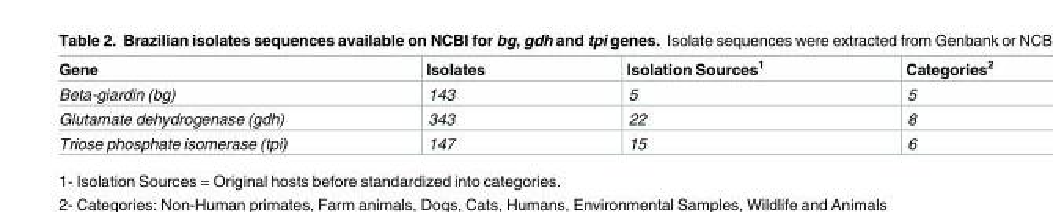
<table><thead><tr><td>Gene</td><td>Isolates</td><td>Isolation Sources<sup>1</sup></td><td>Categories<sup>2</sup></td></tr></thead><tbody><tr><td>Beta-giardin (bg)</td><td>143</td><td>5</td><td>5</td></tr><tr><td>Glutamate dehydrogenase (gdh)</td><td>343</td><td>22</td><td>8</td></tr><tr><td>Triose phosphate isomerase (tpi)</td><td>147</td><td>15</td><td>6</td></tr></tbody></table>